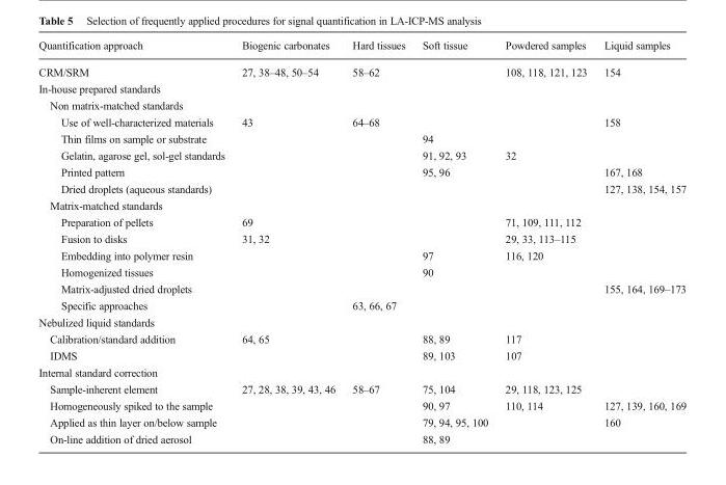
<table><thead><tr><td>Quantification approach</td><td>Biogenic carbonates</td><td>Hard tissues</td><td>Soft tissue</td><td>Powdered samples</td><td>Liquid samples</td></tr></thead><tbody><tr><td>CRM/SRM</td><td>27, 38–48, 50–54</td><td>58–62</td><td></td><td>108, 118, 121, 123</td><td>154</td></tr><tr><td colspan="6">In-house prepared standards</td></tr><tr><td colspan="6">Non matrix-matched standards</td></tr><tr><td>Use of well-characterized materials</td><td>43</td><td>64–68</td><td></td><td></td><td>158</td></tr><tr><td>Thin films on sample or substrate</td><td></td><td></td><td>94</td><td></td><td></td></tr><tr><td>Gelatin, agarose gel, sol-gel standards</td><td></td><td></td><td>91, 92, 93</td><td>32</td><td></td></tr><tr><td>Printed pattern</td><td></td><td></td><td>95, 96</td><td></td><td>167, 168</td></tr><tr><td>Dried droplets (aqueous standards)</td><td></td><td></td><td></td><td></td><td>127, 138, 154, 157</td></tr><tr><td colspan="6">Matrix-matched standards</td></tr><tr><td>Preparation of pellets</td><td>69</td><td></td><td></td><td>71, 109, 111, 112</td><td></td></tr><tr><td>Fusion to disks</td><td>31, 32</td><td></td><td></td><td>29, 33, 113–115</td><td></td></tr><tr><td>Embedding into polymer resin</td><td></td><td></td><td>97</td><td>116, 120</td><td></td></tr><tr><td>Homogenized tissues</td><td></td><td></td><td>90</td><td></td><td></td></tr><tr><td>Matrix-adjusted dried droplets</td><td></td><td></td><td></td><td></td><td>155, 164, 169–173</td></tr><tr><td>Specific approaches</td><td></td><td>63, 66, 67</td><td></td><td></td><td></td></tr><tr><td colspan="6">Nebulized liquid standards</td></tr><tr><td>Calibration/standard addition</td><td>64, 65</td><td></td><td>88, 89</td><td>117</td><td></td></tr><tr><td>IDMS</td><td></td><td></td><td>89, 103</td><td>107</td><td></td></tr><tr><td colspan="6">Internal standard correction</td></tr><tr><td>Sample-inherent element</td><td>27, 28, 38, 39, 43, 46</td><td>58–67</td><td>75, 104</td><td>29, 118, 123, 125</td><td></td></tr><tr><td>Homogeneously spiked to the sample</td><td></td><td></td><td>90, 97</td><td>110, 114</td><td>127, 139, 160, 169</td></tr><tr><td>Applied as thin layer on/below sample</td><td></td><td></td><td>79, 94, 95, 100</td><td></td><td>160</td></tr><tr><td>On-line addition of dried aerosol</td><td></td><td></td><td>88, 89</td><td></td><td></td></tr></tbody></table>